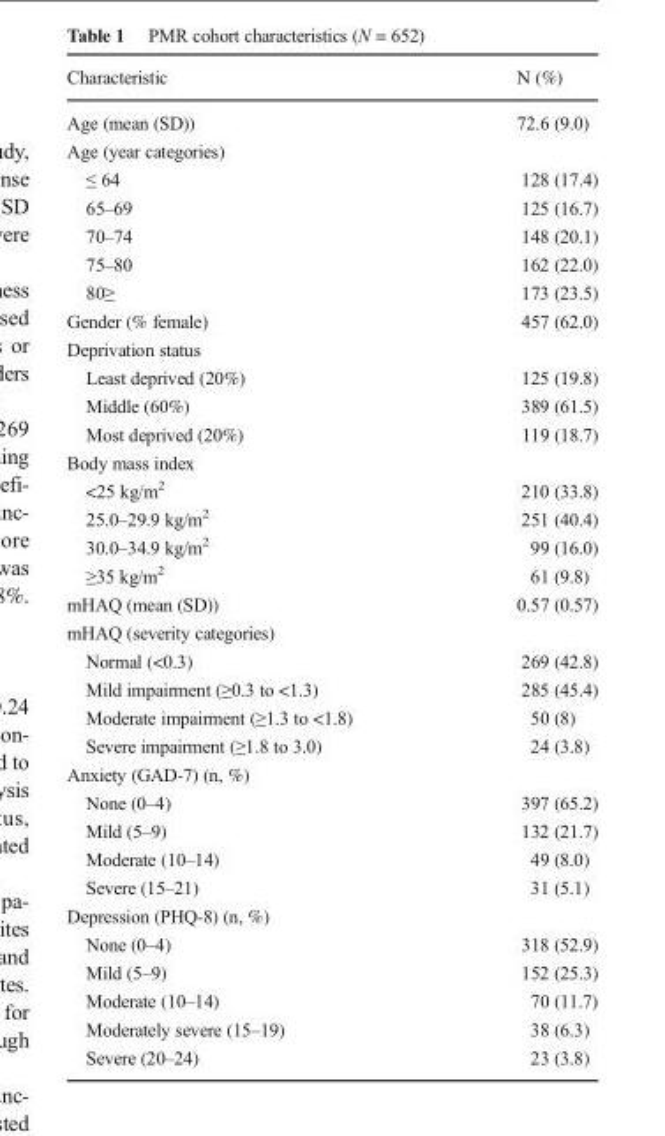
<table><thead><tr><td>Characteristic</td><td>N (%)</td></tr></thead><tbody><tr><td>Age (mean (SD))</td><td>72.6 (9.0)</td></tr><tr><td colspan="2">Age (year categories)</td></tr><tr><td>≤ 64</td><td>128 (17.4)</td></tr><tr><td>65–69</td><td>125 (16.7)</td></tr><tr><td>70–74</td><td>148 (20.1)</td></tr><tr><td>75–80</td><td>162 (22.0)</td></tr><tr><td>80≥</td><td>173 (23.5)</td></tr><tr><td>Gender (% female)</td><td>457 (62.0)</td></tr><tr><td colspan="2">Deprivation status</td></tr><tr><td>Least deprived (20%)</td><td>125 (19.8)</td></tr><tr><td>Middle (60%)</td><td>389 (61.5)</td></tr><tr><td>Most deprived (20%)</td><td>119 (18.7)</td></tr><tr><td colspan="2">Body mass index</td></tr><tr><td>&lt;25 kg/m<sup>2</sup></td><td>210 (33.8)</td></tr><tr><td>25.0–29.9 kg/m<sup>2</sup></td><td>251 (40.4)</td></tr><tr><td>30.0–34.9 kg/m<sup>2</sup></td><td>99 (16.0)</td></tr><tr><td>≥35 kg/m<sup>2</sup></td><td>61 (9.8)</td></tr><tr><td>mHAQ (mean (SD))</td><td>0.57 (0.57)</td></tr><tr><td colspan="2">mHAQ (severity categories)</td></tr><tr><td>Normal (&lt;0.3)</td><td>269 (42.8)</td></tr><tr><td>Mild impairment (≥0.3 to &lt;1.3)</td><td>285 (45.4)</td></tr><tr><td>Moderate impairment (≥1.3 to &lt;1.8)</td><td>50 (8)</td></tr><tr><td>Severe impairment (≥1.8 to 3.0)</td><td>24 (3.8)</td></tr><tr><td colspan="2">Anxiety (GAD-7) (n, %)</td></tr><tr><td>None (0–4)</td><td>397 (65.2)</td></tr><tr><td>Mild (5–9)</td><td>132 (21.7)</td></tr><tr><td>Moderate (10–14)</td><td>49 (8.0)</td></tr><tr><td>Severe (15–21)</td><td>31 (5.1)</td></tr><tr><td colspan="2">Depression (PHQ-8) (n, %)</td></tr><tr><td>None (0–4)</td><td>318 (52.9)</td></tr><tr><td>Mild (5–9)</td><td>152 (25.3)</td></tr><tr><td>Moderate (10–14)</td><td>70 (11.7)</td></tr><tr><td>Moderately severe (15–19)</td><td>38 (6.3)</td></tr><tr><td>Severe (20–24)</td><td>23 (3.8)</td></tr></tbody></table>